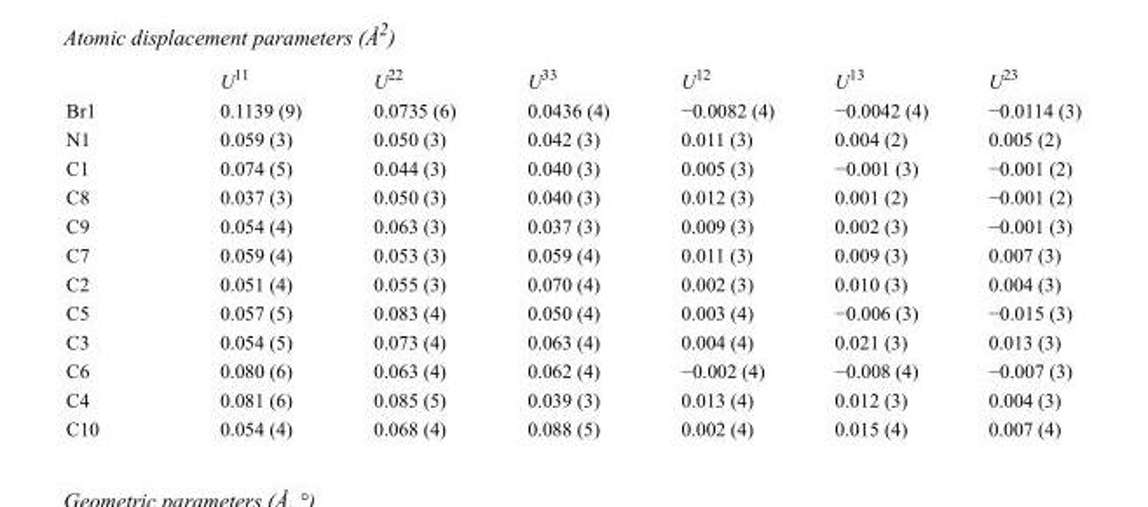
<table><thead><tr><td></td><td>U<sup>11</sup></td><td>U<sup>22</sup></td><td>U<sup>33</sup></td><td>U<sup>12</sup></td><td>U<sup>13</sup></td><td>U<sup>23</sup></td></tr></thead><tbody><tr><td>Br1</td><td>0.1139 (9)</td><td>0.0735 (6)</td><td>0.0436 (4)</td><td>−0.0082 (4)</td><td>−0.0042 (4)</td><td>−0.0114 (3)</td></tr><tr><td>N1</td><td>0.059 (3)</td><td>0.050 (3)</td><td>0.042 (3)</td><td>0.011 (3)</td><td>0.004 (2)</td><td>0.005 (2)</td></tr><tr><td>C1</td><td>0.074 (5)</td><td>0.044 (3)</td><td>0.040 (3)</td><td>0.005 (3)</td><td>−0.001 (3)</td><td>−0.001 (2)</td></tr><tr><td>C8</td><td>0.037 (3)</td><td>0.050 (3)</td><td>0.040 (3)</td><td>0.012 (3)</td><td>0.001 (2)</td><td>−0.001 (2)</td></tr><tr><td>C9</td><td>0.054 (4)</td><td>0.063 (3)</td><td>0.037 (3)</td><td>0.009 (3)</td><td>0.002 (3)</td><td>−0.001 (3)</td></tr><tr><td>C7</td><td>0.059 (4)</td><td>0.053 (3)</td><td>0.059 (4)</td><td>0.011 (3)</td><td>0.009 (3)</td><td>0.007 (3)</td></tr><tr><td>C2</td><td>0.051 (4)</td><td>0.055 (3)</td><td>0.070 (4)</td><td>0.002 (3)</td><td>0.010 (3)</td><td>0.004 (3)</td></tr><tr><td>C5</td><td>0.057 (5)</td><td>0.083 (4)</td><td>0.050 (4)</td><td>0.003 (4)</td><td>−0.006 (3)</td><td>−0.015 (3)</td></tr><tr><td>C3</td><td>0.054 (5)</td><td>0.073 (4)</td><td>0.063 (4)</td><td>0.004 (4)</td><td>0.021 (3)</td><td>0.013 (3)</td></tr><tr><td>C6</td><td>0.080 (6)</td><td>0.063 (4)</td><td>0.062 (4)</td><td>−0.002 (4)</td><td>−0.008 (4)</td><td>−0.007 (3)</td></tr><tr><td>C4</td><td>0.081 (6)</td><td>0.085 (5)</td><td>0.039 (3)</td><td>0.013 (4)</td><td>0.012 (3)</td><td>0.004 (3)</td></tr><tr><td>C10</td><td>0.054 (4)</td><td>0.068 (4)</td><td>0.088 (5)</td><td>0.002 (4)</td><td>0.015 (4)</td><td>0.007 (4)</td></tr></tbody></table>